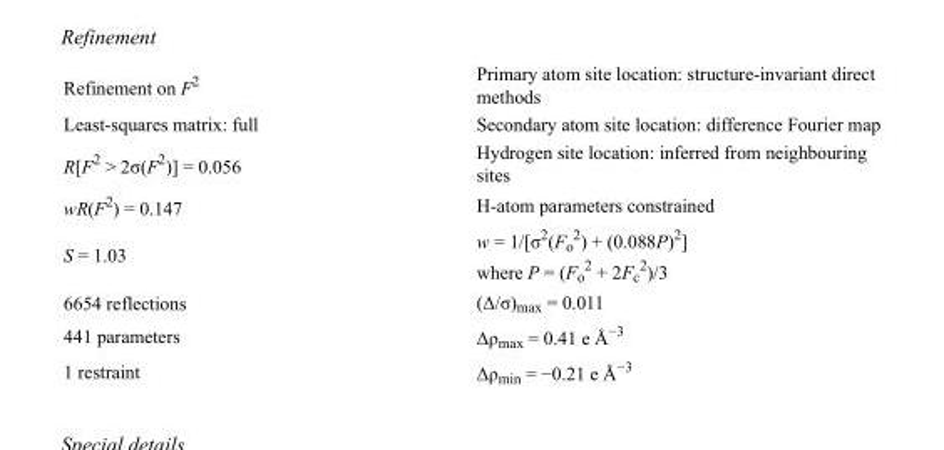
<table><tbody><tr><td>Refinement on F<sup>2</sup></td><td>Primary atom site location: structure-invariant direct methods</td></tr><tr><td>Least-squares matrix: full</td><td>Secondary atom site location: difference Fourier map</td></tr><tr><td>R[F<sup>2</sup> &gt; 2σ(F<sup>2</sup>)] = 0.056</td><td>Hydrogen site location: inferred from neighbouring sites</td></tr><tr><td>wR(F<sup>2</sup>) = 0.147</td><td>H-atom parameters constrained</td></tr><tr><td>S = 1.03</td><td>w = 1/[σ<sup>2</sup>(F<sub>o</sub> <sup>2</sup>) + (0.088P)<sup>2</sup>] where P = (F<sub>o</sub> <sup>2</sup> + 2F<sub>c</sub> <sup>2</sup>)/3</td></tr><tr><td>6654 reflections</td><td>(Δ/σ)<sub>max</sub> = 0.011</td></tr><tr><td>441 parameters</td><td>Δρ<sub>max</sub> = 0.41 e Å<sup>−3</sup></td></tr><tr><td>1 restraint</td><td>Δρ<sub>min</sub> = −0.21 e Å<sup>−3</sup></td></tr></tbody></table>